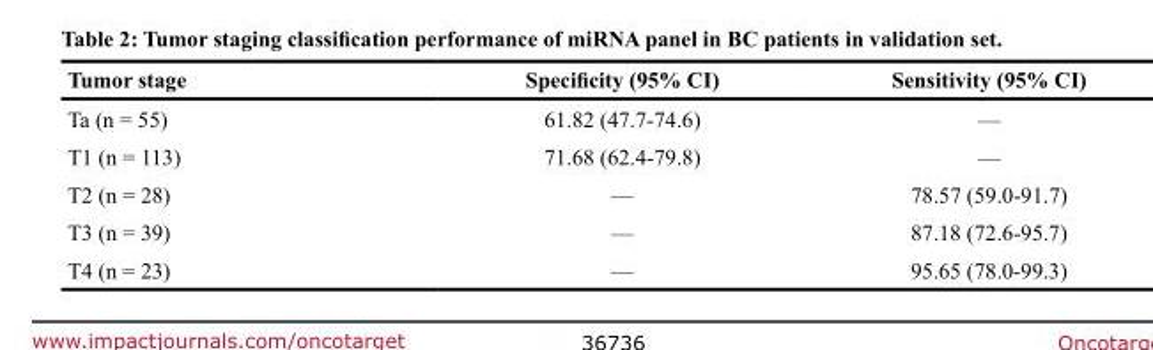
<table><thead><tr><td>Tumor stage</td><td>Specificity (95% CI)</td><td>Sensitivity (95% CI)</td></tr></thead><tbody><tr><td>Ta (n = 55)</td><td>61.82 (47.7-74.6)</td><td>—</td></tr><tr><td>T1 (n = 113)</td><td>71.68 (62.4-79.8)</td><td>—</td></tr><tr><td>T2 (n = 28)</td><td>—</td><td>78.57 (59.0-91.7)</td></tr><tr><td>T3 (n = 39)</td><td>—</td><td>87.18 (72.6-95.7)</td></tr><tr><td>T4 (n = 23)</td><td>—</td><td>95.65 (78.0-99.3)</td></tr></tbody></table>